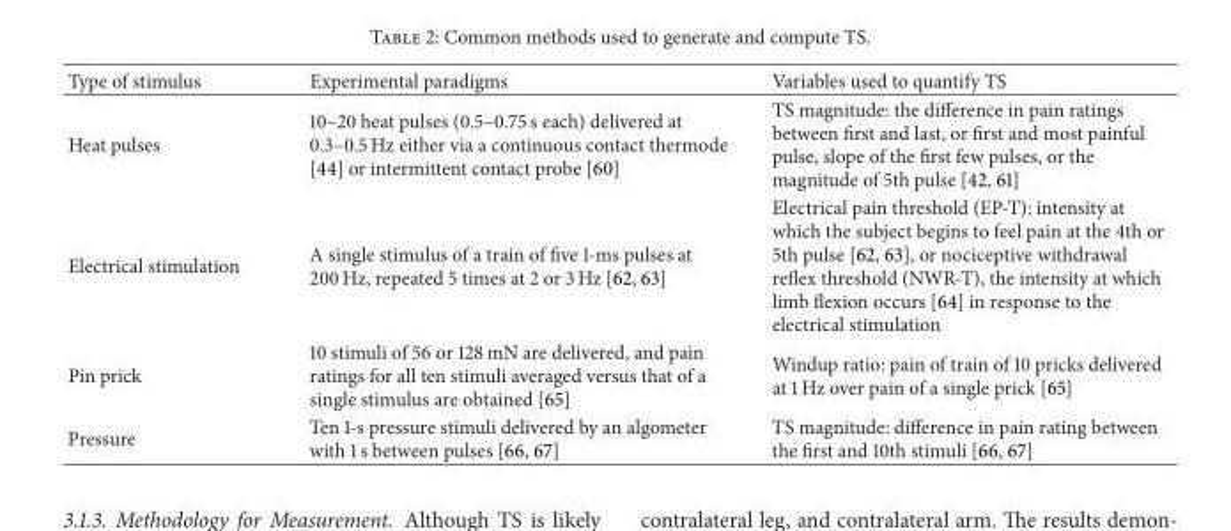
<table><thead><tr><td>Type of stimulus</td><td>Experimental paradigms</td><td>Variables used to quantify TS</td></tr></thead><tbody><tr><td>Heat pulses</td><td>10–20 heat pulses (0.5–0.75 s each) delivered at 0.3–0.5 Hz either via a continuous contact thermode [44] or intermittent contact probe [60]</td><td>TS magnitude: the difference in pain ratings between first and last, or first and most painful pulse, slope of the first few pulses, or the magnitude of 5th pulse [42, 61]</td></tr><tr><td>Electrical stimulation</td><td>A single stimulus of a train of five 1-ms pulses at 200 Hz, repeated 5 times at 2 or 3 Hz [62, 63]</td><td>Electrical pain threshold (EP-T): intensity at which the subject begins to feel pain at the 4th or 5th pulse [62, 63], or nociceptive withdrawal reflex threshold (NWR-T), the intensity at which limb flexion occurs [64] in response to the electrical stimulation</td></tr><tr><td>Pin prick</td><td>10 stimuli of 56 or 128 mN are delivered, and pain ratings for all ten stimuli averaged versus that of a single stimulus are obtained [65]</td><td>Windup ratio: pain of train of 10 pricks delivered at 1 Hz over pain of a single prick [65]</td></tr><tr><td>Pressure</td><td>Ten 1-s pressure stimuli delivered by an algometer with 1 s between pulses [66, 67]</td><td>TS magnitude: difference in pain rating between the first and 10th stimuli [66, 67]</td></tr></tbody></table>